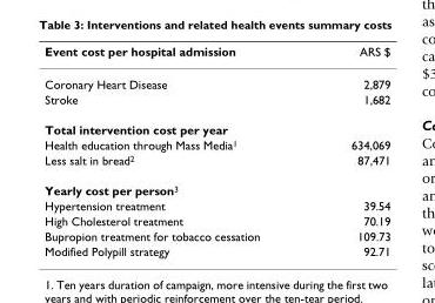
<table><thead><tr><td>Event cost per hospital admission</td><td>ARS $</td></tr></thead><tbody><tr><td>Coronary Heart Disease</td><td>2,879</td></tr><tr><td>Stroke</td><td>1,682</td></tr><tr><td colspan="2">Total intervention cost per year</td></tr><tr><td>Health education through Mass Media<sup>1</sup></td><td>634,069</td></tr><tr><td>Less salt in bread<sup>2</sup></td><td>87,471</td></tr><tr><td colspan="2">Yearly cost per person<sup>3</sup></td></tr><tr><td>Hypertension treatment</td><td>39.54</td></tr><tr><td>High Cholesterol treatment</td><td>70.19</td></tr><tr><td>Bupropion treatment for tobacco cessation</td><td>109.73</td></tr><tr><td>Modified Polypill strategy</td><td>92.71</td></tr></tbody></table>